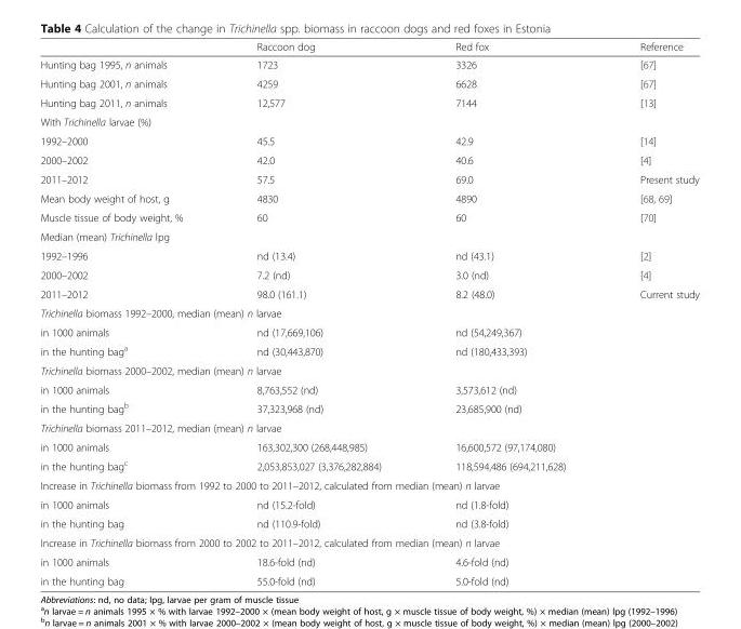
<table><thead><tr><td></td><td>Raccoon dog</td><td>Red fox</td><td>Reference</td></tr></thead><tbody><tr><td>Hunting bag 1995, n animals</td><td>1723</td><td>3326</td><td>[67]</td></tr><tr><td>Hunting bag 2001, n animals</td><td>4259</td><td>6628</td><td>[67]</td></tr><tr><td>Hunting bag 2011, n animals</td><td>12,577</td><td>7144</td><td>[13]</td></tr><tr><td colspan="4">With Trichinella larvae (%)</td></tr><tr><td>1992–2000</td><td>45.5</td><td>42.9</td><td>[14]</td></tr><tr><td>2000–2002</td><td>42.0</td><td>40.6</td><td>[4]</td></tr><tr><td>2011–2012</td><td>57.5</td><td>69.0</td><td>Present study</td></tr><tr><td>Mean body weight of host, g</td><td>4830</td><td>4890</td><td>[68, 69]</td></tr><tr><td>Muscle tissue of body weight, %</td><td>60</td><td>60</td><td>[70]</td></tr><tr><td colspan="4">Median (mean) Trichinella lpg</td></tr><tr><td>1992–1996</td><td>nd (13.4)</td><td>nd (43.1)</td><td>[2]</td></tr><tr><td>2000–2002</td><td>7.2 (nd)</td><td>3.0 (nd)</td><td>[4]</td></tr><tr><td>2011–2012</td><td>98.0 (161.1)</td><td>8.2 (48.0)</td><td>Current study</td></tr><tr><td colspan="4">Trichinella biomass 1992–2000, median (mean) n larvae</td></tr><tr><td>in 1000 animals</td><td>nd (17,669,106)</td><td>nd (54,249,367)</td><td></td></tr><tr><td>in the hunting bag<sup>a</sup></td><td>nd (30,443,870)</td><td>nd (180,433,393)</td><td></td></tr><tr><td colspan="4">Trichinella biomass 2000–2002, median (mean) n larvae</td></tr><tr><td>in 1000 animals</td><td>8,763,552 (nd)</td><td>3,573,612 (nd)</td><td></td></tr><tr><td>in the hunting bag<sup>b</sup></td><td>37,323,968 (nd)</td><td>23,685,900 (nd)</td><td></td></tr><tr><td colspan="4">Trichinella biomass 2011–2012, median (mean) n larvae</td></tr><tr><td>in 1000 animals</td><td>163,302,300 (268,448,985)</td><td>16,600,572 (97,174,080)</td><td></td></tr><tr><td>in the hunting bag<sup>c</sup></td><td>2,053,853,027 (3,376,282,884)</td><td>118,594,486 (694,211,628)</td><td></td></tr><tr><td colspan="4">Increase in Trichinella biomass from 1992 to 2000 to 2011–2012, calculated from median (mean) n larvae</td></tr><tr><td>in 1000 animals</td><td>nd (15.2-fold)</td><td>nd (1.8-fold)</td><td></td></tr><tr><td>in the hunting bag</td><td>nd (110.9-fold)</td><td>nd (3.8-fold)</td><td></td></tr><tr><td colspan="4">Increase in Trichinella biomass from 2000 to 2002 to 2011–2012, calculated from median (mean) n larvae</td></tr><tr><td>in 1000 animals</td><td>18.6-fold (nd)</td><td>4.6-fold (nd)</td><td></td></tr><tr><td>in the hunting bag</td><td>55.0-fold (nd)</td><td>5.0-fold (nd)</td><td></td></tr></tbody></table>